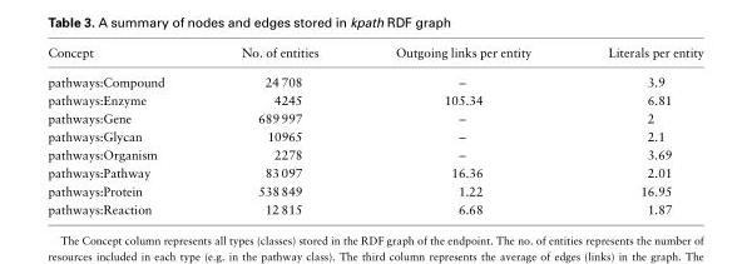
<table><thead><tr><td>Concept</td><td>No. of entities</td><td>Outgoing links per entity</td><td>Literals per entity</td></tr></thead><tbody><tr><td>pathways:Compound</td><td>24 708</td><td>–</td><td>3.9</td></tr><tr><td>pathways:Enzyme</td><td>4245</td><td>105.34</td><td>6.81</td></tr><tr><td>pathways:Gene</td><td>689 997</td><td>–</td><td>2</td></tr><tr><td>pathways:Glycan</td><td>10965</td><td>–</td><td>2.1</td></tr><tr><td>pathways:Organism</td><td>2278</td><td>–</td><td>3.69</td></tr><tr><td>pathways:Pathway</td><td>83 097</td><td>16.36</td><td>2.01</td></tr><tr><td>pathways:Protein</td><td>538 849</td><td>1.22</td><td>16.95</td></tr><tr><td>pathways:Reaction</td><td>12 815</td><td>6.68</td><td>1.87</td></tr></tbody></table>